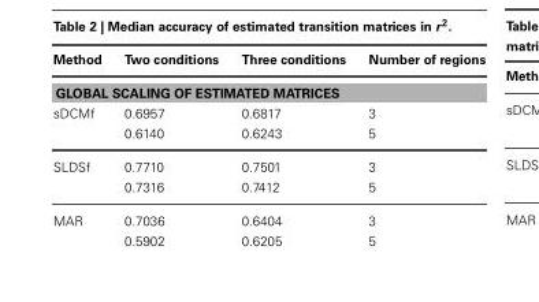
<table><thead><tr><td>Method</td><td>Two conditions</td><td>Three conditions</td><td>Number of regions</td></tr></thead><tbody><tr><td colspan="4">GLOBAL SCALING OF ESTIMATED MATRICES</td></tr><tr><td rowspan="2">sDCMf</td><td>0.6957</td><td>0.6817</td><td>3</td></tr><tr><td>0.6140</td><td>0.6243</td><td>5</td></tr><tr><td rowspan="2">SLDSf</td><td>0.7710</td><td>0.7501</td><td>3</td></tr><tr><td>0.7316</td><td>0.7412</td><td>5</td></tr><tr><td rowspan="2">MAR</td><td>0.7036</td><td>0.6404</td><td>3</td></tr><tr><td>0.5902</td><td>0.6205</td><td>5</td></tr></tbody></table>